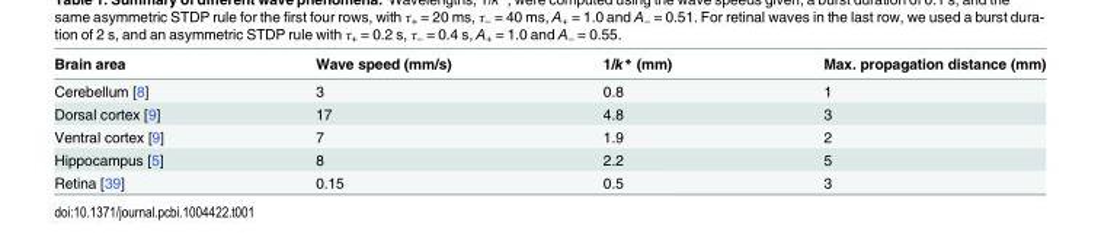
<table><thead><tr><td>Brain area</td><td>Wave speed (mm/s)</td><td>1/k* (mm)</td><td>Max. propagation distance (mm)</td></tr></thead><tbody><tr><td>Cerebellum [8]</td><td>3</td><td>0.8</td><td>1</td></tr><tr><td>Dorsal cortex [9]</td><td>17</td><td>4.8</td><td>3</td></tr><tr><td>Ventral cortex [9]</td><td>7</td><td>1.9</td><td>2</td></tr><tr><td>Hippocampus [5]</td><td>8</td><td>2.2</td><td>5</td></tr><tr><td>Retina [39]</td><td>0.15</td><td>0.5</td><td>3</td></tr></tbody></table>